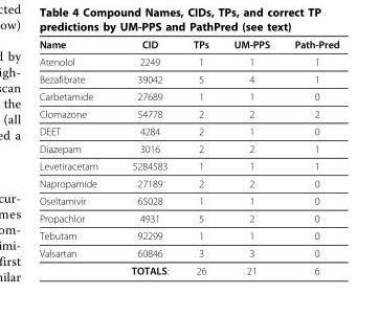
<table><thead><tr><td>Name</td><td>CID</td><td>TPs</td><td>UM-PPS</td><td>Path-Pred</td></tr></thead><tbody><tr><td>Atenolol</td><td>2249</td><td>1</td><td>1</td><td>1</td></tr><tr><td>Bezafibrate</td><td>39042</td><td>5</td><td>4</td><td>1</td></tr><tr><td>Carbetamide</td><td>27689</td><td>1</td><td>1</td><td>0</td></tr><tr><td>Clomazone</td><td>54778</td><td>2</td><td>2</td><td>2</td></tr><tr><td>DEET</td><td>4284</td><td>2</td><td>1</td><td>0</td></tr><tr><td>Diazepam</td><td>3016</td><td>2</td><td>2</td><td>1</td></tr><tr><td>Levetiracetam</td><td>5284583</td><td>1</td><td>1</td><td>1</td></tr><tr><td>Napropamide</td><td>27189</td><td>2</td><td>2</td><td>0</td></tr><tr><td>Oseltamivir</td><td>65028</td><td>1</td><td>1</td><td>0</td></tr><tr><td>Propachlor</td><td>4931</td><td>5</td><td>2</td><td>0</td></tr><tr><td>Tebutam</td><td>92299</td><td>1</td><td>1</td><td>0</td></tr><tr><td rowspan="2">Valsartan</td><td>60846</td><td>3</td><td>3</td><td>0</td></tr><tr><td>TOTALS:</td><td>26</td><td>21</td><td>6</td></tr></tbody></table>